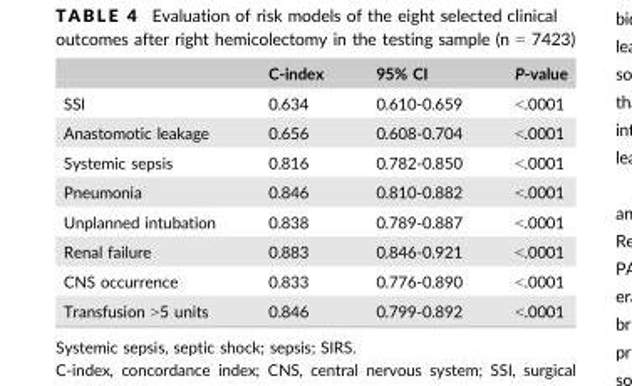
<table><thead><tr><td></td><td>C-index</td><td>95% CI</td><td>P-value</td></tr></thead><tbody><tr><td>SSI</td><td>0.634</td><td>0.610-0.659</td><td>&lt;.0001</td></tr><tr><td>Anastomotic leakage</td><td>0.656</td><td>0.608-0.704</td><td>&lt;.0001</td></tr><tr><td>Systemic sepsis</td><td>0.816</td><td>0.782-0.850</td><td>&lt;.0001</td></tr><tr><td>Pneumonia</td><td>0.846</td><td>0.810-0.882</td><td>&lt;.0001</td></tr><tr><td>Unplanned intubation</td><td>0.838</td><td>0.789-0.887</td><td>&lt;.0001</td></tr><tr><td>Renal failure</td><td>0.883</td><td>0.846-0.921</td><td>&lt;.0001</td></tr><tr><td>CNS occurrence</td><td>0.833</td><td>0.776-0.890</td><td>&lt;.0001</td></tr><tr><td>Transfusion &gt;5 units</td><td>0.846</td><td>0.799-0.892</td><td>&lt;.0001</td></tr></tbody></table>